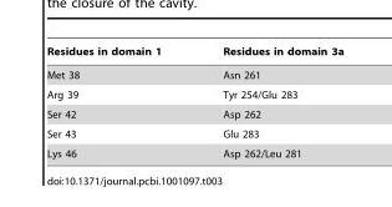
<table><thead><tr><td>Residues in domain 1</td><td>Residues in domain 3a</td></tr></thead><tbody><tr><td>Met 38</td><td>Asn 261</td></tr><tr><td>Arg 39</td><td>Tyr 254/Glu 283</td></tr><tr><td>Ser 42</td><td>Asp 262</td></tr><tr><td>Ser 43</td><td>Glu 283</td></tr><tr><td>Lys 46</td><td>Asp 262/Leu 281</td></tr></tbody></table>